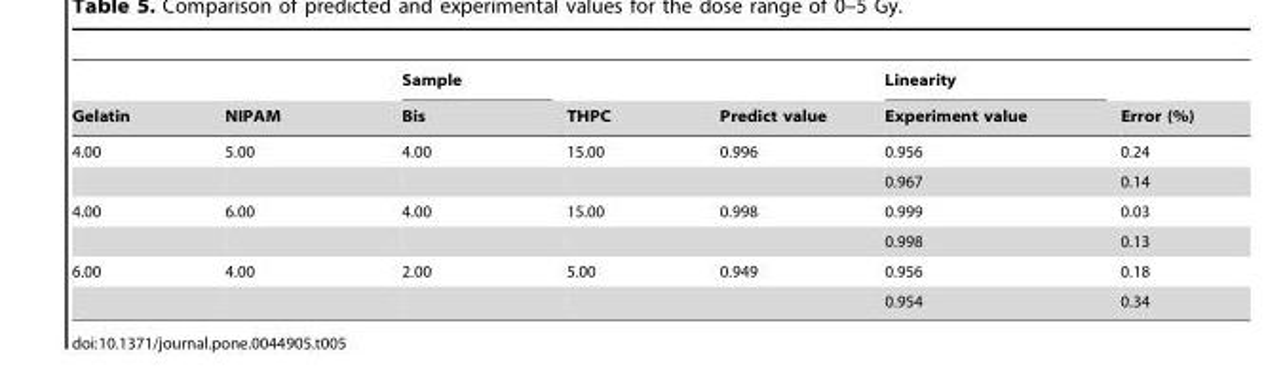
<table><thead><tr><td rowspan="2">Gelatin</td><td rowspan="2">NIPAM</td><td rowspan="2">Sample Bis</td><td rowspan="2">THPC</td><td rowspan="2">Predict value</td><td rowspan="2">Linearity Experiment value</td><td rowspan="2">Error (%)</td></tr><tr></tr></thead><tbody><tr><td rowspan="2">4.00</td><td>5.00</td><td>4.00</td><td>15.00</td><td>0.996</td><td>0.956</td><td>0.24</td></tr><tr><td></td><td></td><td></td><td></td><td>0.967</td><td>0.14</td></tr><tr><td rowspan="2">4.00</td><td>6.00</td><td>4.00</td><td>15.00</td><td>0.998</td><td>0.999</td><td>0.03</td></tr><tr><td></td><td></td><td></td><td></td><td>0.998</td><td>0.13</td></tr><tr><td rowspan="2">6.00</td><td>4.00</td><td>2.00</td><td>5.00</td><td>0.949</td><td>0.956</td><td>0.18</td></tr><tr><td></td><td></td><td></td><td></td><td>0.954</td><td>0.34</td></tr></tbody></table>